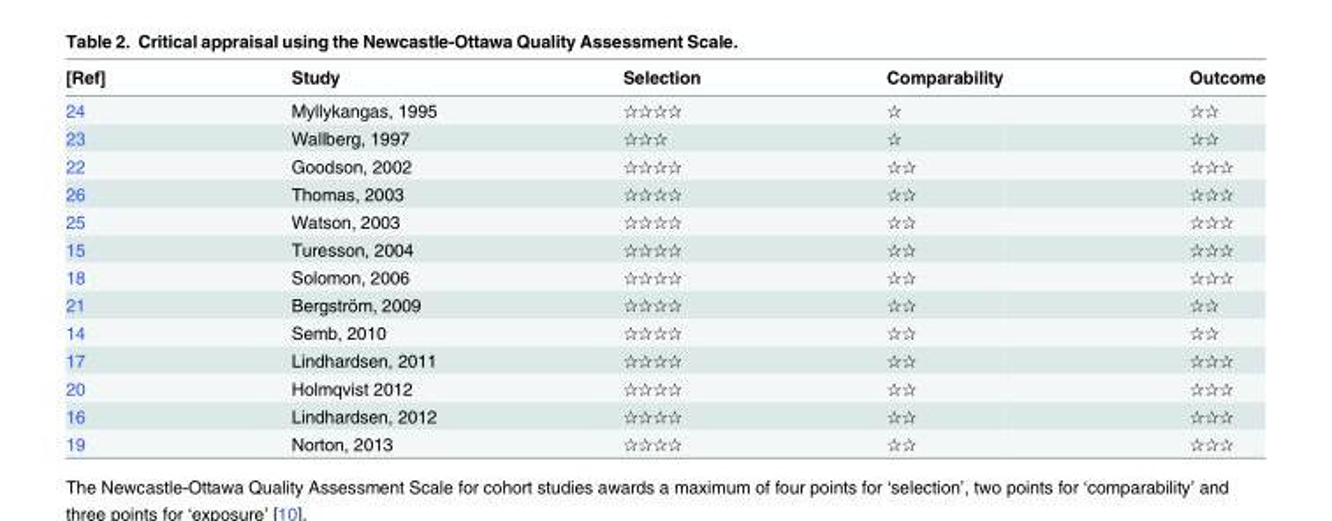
<table><thead><tr><td>[Ref]</td><td>Study</td><td>Selection</td><td>Comparability</td><td>Outcome</td></tr></thead><tbody><tr><td>24</td><td>Myllykangas, 1995</td><td>✰✰✰✰</td><td>✰</td><td>✰✰</td></tr><tr><td>23</td><td>Wallberg, 1997</td><td>✰✰✰</td><td>✰</td><td>✰✰</td></tr><tr><td>22</td><td>Goodson, 2002</td><td>✰✰✰✰</td><td>✰✰</td><td>✰✰✰</td></tr><tr><td>26</td><td>Thomas, 2003</td><td>✰✰✰✰</td><td>✰✰</td><td>✰✰✰</td></tr><tr><td>25</td><td>Watson, 2003</td><td>✰✰✰✰</td><td>✰✰</td><td>✰✰✰</td></tr><tr><td>15</td><td>Turesson, 2004</td><td>✰✰✰✰</td><td>✰✰</td><td>✰✰✰</td></tr><tr><td>18</td><td>Solomon, 2006</td><td>✰✰✰✰</td><td>✰✰</td><td>✰✰✰</td></tr><tr><td>21</td><td>Bergström, 2009</td><td>✰✰✰✰</td><td>✰✰</td><td>✰✰</td></tr><tr><td>14</td><td>Semb, 2010</td><td>✰✰✰✰</td><td>✰✰</td><td>✰✰</td></tr><tr><td>17</td><td>Lindhardsen, 2011</td><td>✰✰✰✰</td><td>✰✰</td><td>✰✰✰</td></tr><tr><td>20</td><td>Holmqvist 2012</td><td>✰✰✰✰</td><td>✰✰</td><td>✰✰✰</td></tr><tr><td>16</td><td>Lindhardsen, 2012</td><td>✰✰✰✰</td><td>✰✰</td><td>✰✰✰</td></tr><tr><td>19</td><td>Norton, 2013</td><td>✰✰✰✰</td><td>✰✰</td><td>✰✰✰</td></tr></tbody></table>